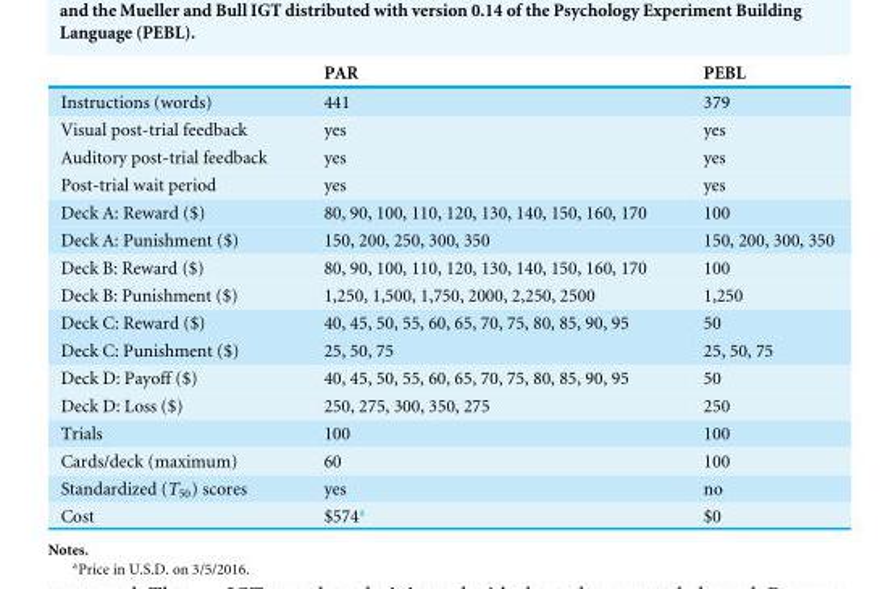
<table><thead><tr><td></td><td>PAR</td><td>PEBL</td></tr></thead><tbody><tr><td>Instructions (words)</td><td>441</td><td>379</td></tr><tr><td>Visual post-trial feedback</td><td>yes</td><td>yes</td></tr><tr><td>Auditory post-trial feedback</td><td>yes</td><td>yes</td></tr><tr><td>Post-trial wait period</td><td>yes</td><td>yes</td></tr><tr><td>Deck A: Reward ($)</td><td>80, 90, 100, 110, 120, 130, 140, 150, 160, 170</td><td>100</td></tr><tr><td>Deck A: Punishment ($)</td><td>150, 200, 250, 300, 350</td><td>150, 200, 300, 350</td></tr><tr><td>Deck B: Reward ($)</td><td>80, 90, 100, 110, 120, 130, 140, 150, 160, 170</td><td>100</td></tr><tr><td>Deck B: Punishment ($)</td><td>1,250, 1,500, 1,750, 2000, 2,250, 2500</td><td>1,250</td></tr><tr><td>Deck C: Reward ($)</td><td>40, 45, 50, 55, 60, 65, 70, 75, 80, 85, 90, 95</td><td>50</td></tr><tr><td>Deck C: Punishment ($)</td><td>25, 50, 75</td><td>25, 50, 75</td></tr><tr><td>Deck D: Payoff ($)</td><td>40, 45, 50, 55, 60, 65, 70, 75, 80, 85, 90, 95</td><td>50</td></tr><tr><td>Deck D: Loss ($)</td><td>250, 275, 300, 350, 275</td><td>250</td></tr><tr><td>Trials</td><td>100</td><td>100</td></tr><tr><td>Cards/deck (maximum)</td><td>60</td><td>100</td></tr><tr><td>Standardized (T<sub>50</sub>) scores</td><td>yes</td><td>no</td></tr><tr><td>Cost</td><td>$574<sup>a</sup></td><td>$0</td></tr></tbody></table>